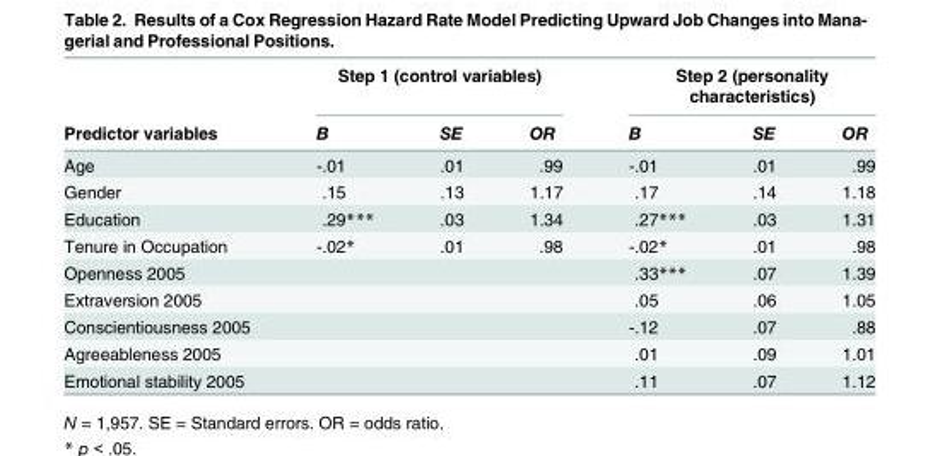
<table><thead><tr><td rowspan="2">Predictor variables</td><td colspan="3">Step 1 (control variables)</td><td colspan="3">Step 2 (personality characteristics)</td></tr><tr><td>B</td><td>SE</td><td>OR</td><td>B</td><td>SE</td><td>OR</td></tr></thead><tbody><tr><td>Age</td><td>-.01</td><td>.01</td><td>.99</td><td>-.01</td><td>.01</td><td>.99</td></tr><tr><td>Gender</td><td>.15</td><td>.13</td><td>1.17</td><td>.17</td><td>.14</td><td>1.18</td></tr><tr><td>Education</td><td>.29***</td><td>.03</td><td>1.34</td><td>.27***</td><td>.03</td><td>1.31</td></tr><tr><td>Tenure in Occupation</td><td>-.02*</td><td>.01</td><td>.98</td><td>-.02*</td><td>.01</td><td>.98</td></tr><tr><td>Openness 2005</td><td></td><td></td><td></td><td>.33***</td><td>.07</td><td>1.39</td></tr><tr><td>Extraversion 2005</td><td></td><td></td><td></td><td>.05</td><td>.06</td><td>1.05</td></tr><tr><td>Conscientiousness 2005</td><td></td><td></td><td></td><td>-.12</td><td>.07</td><td>.88</td></tr><tr><td>Agreeableness 2005</td><td></td><td></td><td></td><td>.01</td><td>.09</td><td>1.01</td></tr><tr><td>Emotional stability 2005</td><td></td><td></td><td></td><td>.11</td><td>.07</td><td>1.12</td></tr></tbody></table>